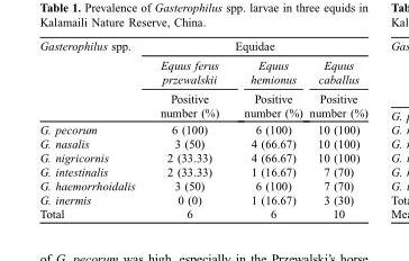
<table><thead><tr><td rowspan="3">Gasterophilus spp.</td><td colspan="3">Equidae</td></tr><tr><td rowspan="2">Equus ferus przewalskii Positive number (%)</td><td rowspan="2">Equus hemionus Positive number (%)</td><td rowspan="2">Equus caballus Positive number (%)</td></tr><tr></tr></thead><tbody><tr><td>G. pecorum</td><td>6 (100)</td><td>6 (100)</td><td>10 (100)</td></tr><tr><td>G. nasalis</td><td>3 (50)</td><td>4 (66.67)</td><td>10 (100)</td></tr><tr><td>G. nigricornis</td><td>2 (33.33)</td><td>4 (66.67)</td><td>10 (100)</td></tr><tr><td>G. intestinalis</td><td>2 (33.33)</td><td>1 (16.67)</td><td>7 (70)</td></tr><tr><td>G. haemorrhoidalis</td><td>3 (50)</td><td>6 (100)</td><td>7 (70)</td></tr><tr><td>G. inermis</td><td>0 (0)</td><td>1 (16.67)</td><td>3 (30)</td></tr><tr><td>Total</td><td>6</td><td>6</td><td>10</td></tr></tbody></table>